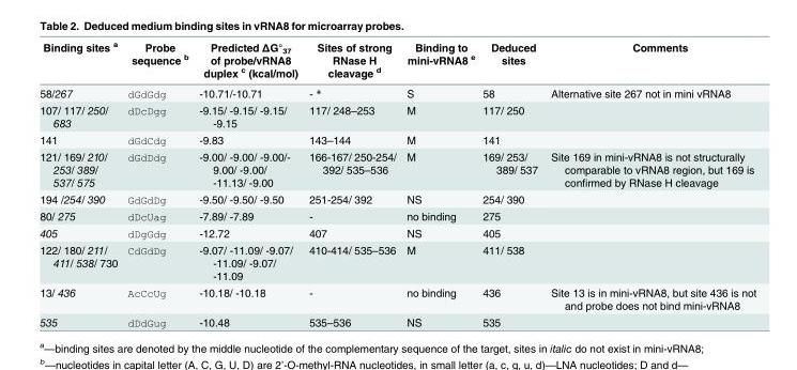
<table><thead><tr><td>Binding sites <sup>a</sup></td><td>Probe sequence <sup>b</sup></td><td>Predicted ΔG°<sub>37</sub> of probe/vRNA8 duplex <sup>c</sup> (kcal/mol)</td><td>Sites of strong RNase H cleavage <sup>d</sup></td><td>Binding to mini-vRNA8 <sup>e</sup></td><td>Deduced sites</td><td>Comments</td></tr></thead><tbody><tr><td>58/267</td><td>dGdGdg</td><td>-10.71/-10.71</td><td>- *</td><td>S</td><td>58</td><td>Alternative site 267 not in mini vRNA8</td></tr><tr><td>107/ 117/ 250/ 683</td><td>dDcDgg</td><td>-9.15/ -9.15/ -9.15/ -9.15</td><td>117/ 248–253</td><td>M</td><td>117/ 250</td><td></td></tr><tr><td>141</td><td>dGdCdg</td><td>-9.83</td><td>143–144</td><td>M</td><td>141</td><td></td></tr><tr><td>121/ 169/ 210/ 253/ 389/ 537/ 575</td><td>dGdDdg</td><td>-9.00/ -9.00/ -9.00/- 9.00/ -9.00/ -11.13/ -9.00</td><td>166-167/ 250-254/ 392/ 535–536</td><td>M</td><td>169/ 253/ 389/ 537</td><td>Site 169 in mini-vRNA8 is not structurally comparable to vRNA8 region, but 169 is confirmed by RNase H cleavage</td></tr><tr><td>194 /254/ 390</td><td>GdGdDg</td><td>-9.50/ -9.50/ -9.50</td><td>251-254/ 392</td><td>NS</td><td>254/ 390</td><td></td></tr><tr><td>80/ 275</td><td>dDcUag</td><td>-7.89/ -7.89</td><td>-</td><td>no binding</td><td>275</td><td></td></tr><tr><td>405</td><td>dDgGdg</td><td>-12.72</td><td>407</td><td>NS</td><td>405</td><td></td></tr><tr><td>122/ 180/ 211/ 411/ 538/ 730</td><td>CdGdDg</td><td>-9.07/ -11.09/ -9.07/ -11.09/ -9.07/ -11.09</td><td>410-414/ 535–536</td><td>M</td><td>411/ 538</td><td></td></tr><tr><td>13/ 436</td><td>AcCcUg</td><td>-10.18/ -10.18</td><td>-</td><td>no binding</td><td>436</td><td>Site 13 is in mini-vRNA8, but site 436 is not and probe does not bind mini-vRNA8</td></tr><tr><td>535</td><td>dDdGug</td><td>-10.48</td><td>535–536</td><td>NS</td><td>535</td><td></td></tr></tbody></table>